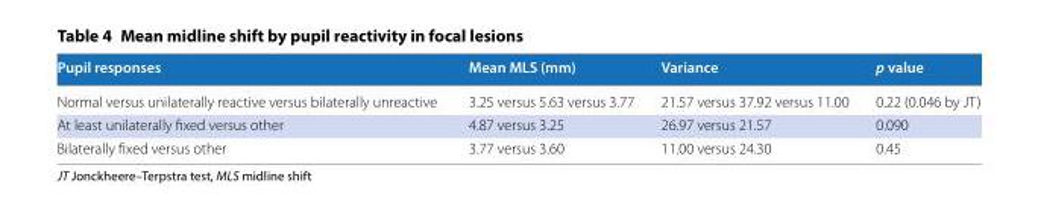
<table><thead><tr><td>Pupil responses</td><td>Mean MLS (mm)</td><td>Variance</td><td>p value</td></tr></thead><tbody><tr><td>Normal versus unilaterally reactive versus bilaterally unreactive</td><td>3.25 versus 5.63 versus 3.77</td><td>21.57 versus 37.92 versus 11.00</td><td>0.22 (0.046 by JT)</td></tr><tr><td>At least unilaterally fixed versus other</td><td>4.87 versus 3.25</td><td>26.97 versus 21.57</td><td>0.090</td></tr><tr><td>Bilaterally fixed versus other</td><td>3.77 versus 3.60</td><td>11.00 versus 24.30</td><td>0.45</td></tr></tbody></table>